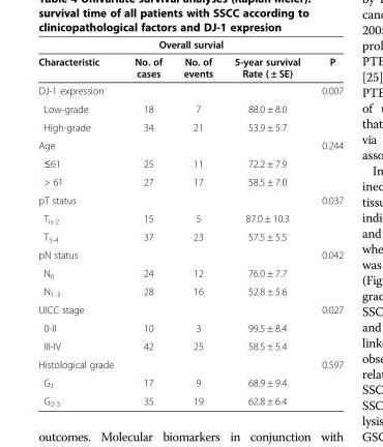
<table><thead><tr><td colspan="5">Overall survial</td></tr><tr><td>Characteristic</td><td>No. of cases</td><td>No. of events</td><td>5-year survival Rate ( ± SE)</td><td>P</td></tr></thead><tbody><tr><td>DJ-1 expression</td><td></td><td></td><td></td><td>0.007</td></tr><tr><td>Low-grade</td><td>18</td><td>7</td><td>88.0 ± 8.0</td><td></td></tr><tr><td>High-grade</td><td>34</td><td>21</td><td>53.9 ± 5.7</td><td></td></tr><tr><td>Age</td><td></td><td></td><td></td><td>0.244</td></tr><tr><td>≤61</td><td>25</td><td>11</td><td>72.2 ± 7.9</td><td></td></tr><tr><td>&gt; 61</td><td>27</td><td>17</td><td>58.5 ± 7.0</td><td></td></tr><tr><td>pT status</td><td></td><td></td><td></td><td>0.037</td></tr><tr><td>T<sub>is-2</sub></td><td>15</td><td>5</td><td>87.0 ± 10.3</td><td></td></tr><tr><td>T<sub>3-4</sub></td><td>37</td><td>23</td><td>57.5 ± 5.5</td><td></td></tr><tr><td>pN status</td><td></td><td></td><td></td><td>0.042</td></tr><tr><td>N<sub>0</sub></td><td>24</td><td>12</td><td>76.0 ± 7.7</td><td></td></tr><tr><td>N<sub>1-3</sub></td><td>28</td><td>16</td><td>52.8 ± 5.6</td><td></td></tr><tr><td>UICC stage</td><td></td><td></td><td></td><td>0.027</td></tr><tr><td>0-II</td><td>10</td><td>3</td><td>99.5 ± 8.4</td><td></td></tr><tr><td>III-IV</td><td>42</td><td>25</td><td>58.5 ± 5.4</td><td></td></tr><tr><td>Histological grade</td><td></td><td></td><td></td><td>0.597</td></tr><tr><td>G<sub>1</sub></td><td>17</td><td>9</td><td>68.9 ± 9.4</td><td></td></tr><tr><td>G<sub>2-3</sub></td><td>35</td><td>19</td><td>62.8 ± 6.4</td><td></td></tr></tbody></table>